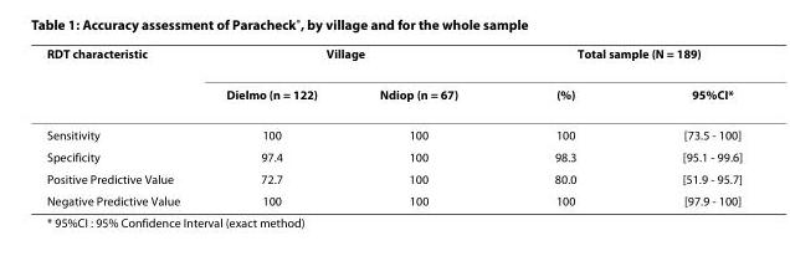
<table><thead><tr><td rowspan="2">RDT characteristic</td><td colspan="2">Village</td><td colspan="2">Total sample (N = 189)</td></tr><tr><td>Dielmo (n = 122)</td><td>Ndiop (n = 67)</td><td>(%)</td><td>95%CI*</td></tr></thead><tbody><tr><td>Sensitivity</td><td>100</td><td>100</td><td>100</td><td>[73.5 - 100]</td></tr><tr><td>Specificity</td><td>97.4</td><td>100</td><td>98.3</td><td>[95.1 - 99.6]</td></tr><tr><td>Positive Predictive Value</td><td>72.7</td><td>100</td><td>80.0</td><td>[51.9 - 95.7]</td></tr><tr><td>Negative Predictive Value</td><td>100</td><td>100</td><td>100</td><td>[97.9 - 100]</td></tr></tbody></table>